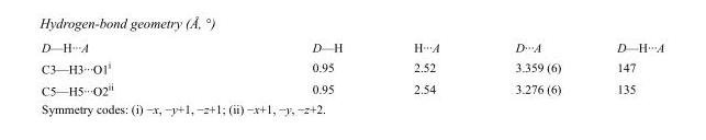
<table><tbody><tr><td>D—H···A</td><td>D—H</td><td>H···A</td><td>D···A</td><td>D—H···A</td></tr><tr><td>C3—H3···O1<sup>i</sup></td><td>0.95</td><td>2.52</td><td>3.359 (6)</td><td>147</td></tr><tr><td>C5—H5···O2<sup>ii</sup></td><td>0.95</td><td>2.54</td><td>3.276 (6)</td><td>135</td></tr></tbody></table>